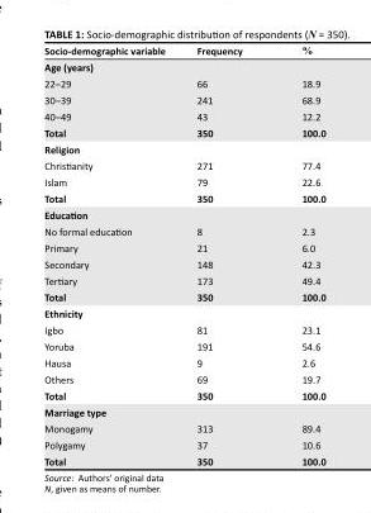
<table><thead><tr><td>Socio-demographic variable</td><td>Frequency</td><td>%</td></tr></thead><tbody><tr><td colspan="3">Age (years)</td></tr><tr><td>22–29</td><td>66</td><td>18.9</td></tr><tr><td>30–39</td><td>241</td><td>68.9</td></tr><tr><td>40–49</td><td>43</td><td>12.2</td></tr><tr><td>Total</td><td>350</td><td>100.0</td></tr><tr><td colspan="3">Religion</td></tr><tr><td>Christianity</td><td>271</td><td>77.4</td></tr><tr><td>Islam</td><td>79</td><td>22.6</td></tr><tr><td>Total</td><td>350</td><td>100.0</td></tr><tr><td colspan="3">Education</td></tr><tr><td>No formal education</td><td>8</td><td>2.3</td></tr><tr><td>Primary</td><td>21</td><td>6.0</td></tr><tr><td>Secondary</td><td>148</td><td>42.3</td></tr><tr><td>Tertiary</td><td>173</td><td>49.4</td></tr><tr><td>Total</td><td>350</td><td>100.0</td></tr><tr><td colspan="3">Ethnicity</td></tr><tr><td>Igbo</td><td>81</td><td>23.1</td></tr><tr><td>Yoruba</td><td>191</td><td>54.6</td></tr><tr><td>Hausa</td><td>9</td><td>2.6</td></tr><tr><td>Others</td><td>69</td><td>19.7</td></tr><tr><td>Total</td><td>350</td><td>100.0</td></tr><tr><td colspan="3">Marriage type</td></tr><tr><td>Monogamy</td><td>313</td><td>89.4</td></tr><tr><td>Polygamy</td><td>37</td><td>10.6</td></tr><tr><td>Total</td><td>350</td><td>100.0</td></tr></tbody></table>